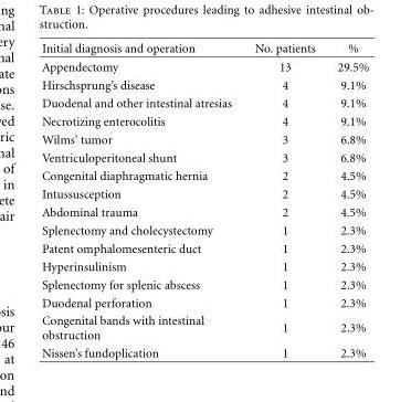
<table><thead><tr><td>Initial diagnosis and operation</td><td>No. patients</td><td>%</td></tr></thead><tbody><tr><td>Appendectomy</td><td>13</td><td>29.5%</td></tr><tr><td>Hirschsprung’s disease</td><td>4</td><td>9.1%</td></tr><tr><td>Duodenal and other intestinal atresias</td><td>4</td><td>9.1%</td></tr><tr><td>Necrotizing enterocolitis</td><td>4</td><td>9.1%</td></tr><tr><td>Wilms’ tumor</td><td>3</td><td>6.8%</td></tr><tr><td>Ventriculoperitoneal shunt</td><td>3</td><td>6.8%</td></tr><tr><td>Congenital diaphragmatic hernia</td><td>2</td><td>4.5%</td></tr><tr><td>Intussusception</td><td>2</td><td>4.5%</td></tr><tr><td>Abdominal trauma</td><td>2</td><td>4.5%</td></tr><tr><td>Splenectomy and cholecystectomy</td><td>1</td><td>2.3%</td></tr><tr><td>Patent omphalomesenteric duct</td><td>1</td><td>2.3%</td></tr><tr><td>Hyperinsulinism</td><td>1</td><td>2.3%</td></tr><tr><td>Splenectomy for splenic abscess</td><td>1</td><td>2.3%</td></tr><tr><td>Duodenal perforation</td><td>1</td><td>2.3%</td></tr><tr><td>Congenital bands with intestinal obstruction</td><td>1</td><td>2.3%</td></tr><tr><td>Nissen’s fundoplication</td><td>1</td><td>2.3%</td></tr></tbody></table>